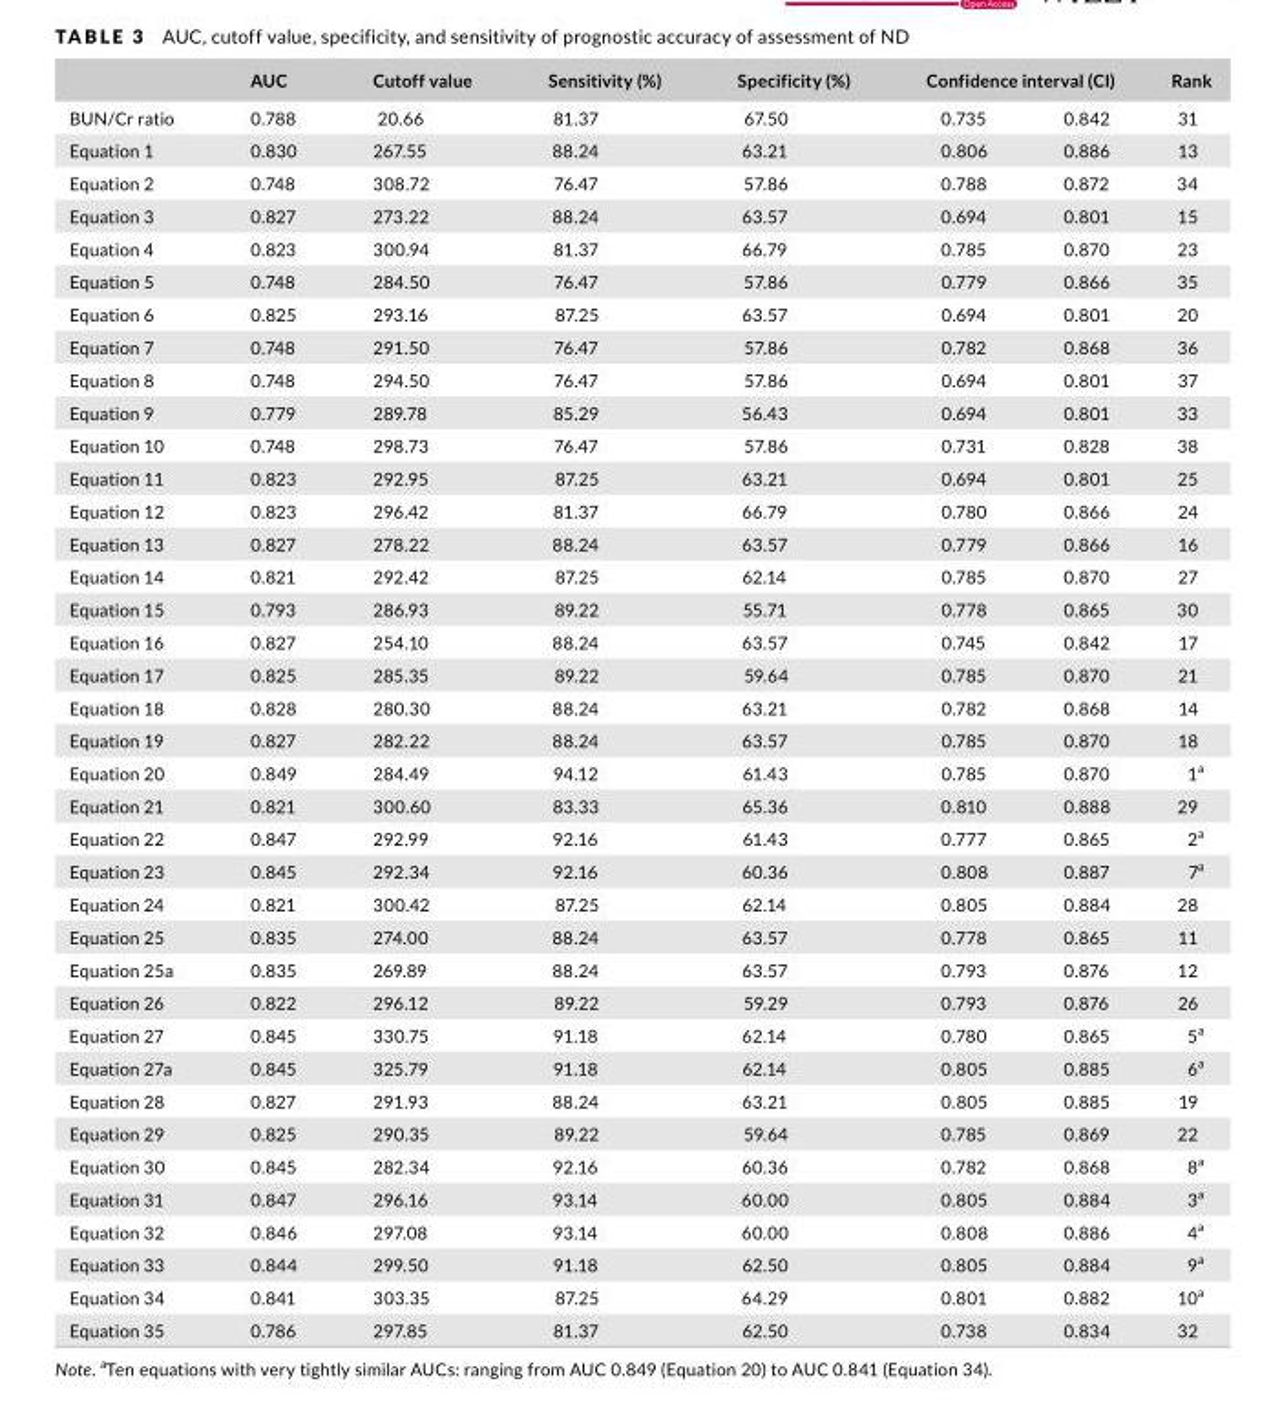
<table><thead><tr><td rowspan="2">BUN/Cr ratio</td><td rowspan="2">AUC 0.788</td><td rowspan="2">Cutoff value 20.66</td><td rowspan="2">Sensitivity (%) 81.37</td><td rowspan="2">Specificity (%) 67.50</td><td colspan="2">Confidence interval (CI)</td><td rowspan="2">Rank 31</td></tr><tr><td>0.735</td><td>0.842</td></tr></thead><tbody><tr><td>Equation 1</td><td>0.830</td><td>267.55</td><td>88.24</td><td>63.21</td><td>0.806</td><td>0.886</td><td>13</td></tr><tr><td>Equation 2</td><td>0.748</td><td>308.72</td><td>76.47</td><td>57.86</td><td>0.788</td><td>0.872</td><td>34</td></tr><tr><td>Equation 3</td><td>0.827</td><td>273.22</td><td>88.24</td><td>63.57</td><td>0.694</td><td>0.801</td><td>15</td></tr><tr><td>Equation 4</td><td>0.823</td><td>300.94</td><td>81.37</td><td>66.79</td><td>0.785</td><td>0.870</td><td>23</td></tr><tr><td>Equation 5</td><td>0.748</td><td>284.50</td><td>76.47</td><td>57.86</td><td>0.779</td><td>0.866</td><td>35</td></tr><tr><td>Equation 6</td><td>0.825</td><td>293.16</td><td>87.25</td><td>63.57</td><td>0.694</td><td>0.801</td><td>20</td></tr><tr><td>Equation 7</td><td>0.748</td><td>291.50</td><td>76.47</td><td>57.86</td><td>0.782</td><td>0.868</td><td>36</td></tr><tr><td>Equation 8</td><td>0.748</td><td>294.50</td><td>76.47</td><td>57.86</td><td>0.694</td><td>0.801</td><td>37</td></tr><tr><td>Equation 9</td><td>0.779</td><td>289.78</td><td>85.29</td><td>56.43</td><td>0.694</td><td>0.801</td><td>33</td></tr><tr><td>Equation 10</td><td>0.748</td><td>298.73</td><td>76.47</td><td>57.86</td><td>0.731</td><td>0.828</td><td>38</td></tr><tr><td>Equation 11</td><td>0.823</td><td>292.95</td><td>87.25</td><td>63.21</td><td>0.694</td><td>0.801</td><td>25</td></tr><tr><td>Equation 12</td><td>0.823</td><td>296.42</td><td>81.37</td><td>66.79</td><td>0.780</td><td>0.866</td><td>24</td></tr><tr><td>Equation 13</td><td>0.827</td><td>278.22</td><td>88.24</td><td>63.57</td><td>0.779</td><td>0.866</td><td>16</td></tr><tr><td>Equation 14</td><td>0.821</td><td>292.42</td><td>87.25</td><td>62.14</td><td>0.785</td><td>0.870</td><td>27</td></tr><tr><td>Equation 15</td><td>0.793</td><td>286.93</td><td>89.22</td><td>55.71</td><td>0.778</td><td>0.865</td><td>30</td></tr><tr><td>Equation 16</td><td>0.827</td><td>254.10</td><td>88.24</td><td>63.57</td><td>0.745</td><td>0.842</td><td>17</td></tr><tr><td>Equation 17</td><td>0.825</td><td>285.35</td><td>89.22</td><td>59.64</td><td>0.785</td><td>0.870</td><td>21</td></tr><tr><td>Equation 18</td><td>0.828</td><td>280.30</td><td>88.24</td><td>63.21</td><td>0.782</td><td>0.868</td><td>14</td></tr><tr><td>Equation 19</td><td>0.827</td><td>282.22</td><td>88.24</td><td>63.57</td><td>0.785</td><td>0.870</td><td>18</td></tr><tr><td>Equation 20</td><td>0.849</td><td>284.49</td><td>94.12</td><td>61.43</td><td>0.785</td><td>0.870</td><td>1<sup>a</sup></td></tr><tr><td>Equation 21</td><td>0.821</td><td>300.60</td><td>83.33</td><td>65.36</td><td>0.810</td><td>0.888</td><td>29</td></tr><tr><td>Equation 22</td><td>0.847</td><td>292.99</td><td>92.16</td><td>61.43</td><td>0.777</td><td>0.865</td><td>2<sup>a</sup></td></tr><tr><td>Equation 23</td><td>0.845</td><td>292.34</td><td>92.16</td><td>60.36</td><td>0.808</td><td>0.887</td><td>7<sup>a</sup></td></tr><tr><td>Equation 24</td><td>0.821</td><td>300.42</td><td>87.25</td><td>62.14</td><td>0.805</td><td>0.884</td><td>28</td></tr><tr><td>Equation 25</td><td>0.835</td><td>274.00</td><td>88.24</td><td>63.57</td><td>0.778</td><td>0.865</td><td>11</td></tr><tr><td>Equation 25a</td><td>0.835</td><td>269.89</td><td>88.24</td><td>63.57</td><td>0.793</td><td>0.876</td><td>12</td></tr><tr><td>Equation 26</td><td>0.822</td><td>296.12</td><td>89.22</td><td>59.29</td><td>0.793</td><td>0.876</td><td>26</td></tr><tr><td>Equation 27</td><td>0.845</td><td>330.75</td><td>91.18</td><td>62.14</td><td>0.780</td><td>0.865</td><td>5<sup>a</sup></td></tr><tr><td>Equation 27a</td><td>0.845</td><td>325.79</td><td>91.18</td><td>62.14</td><td>0.805</td><td>0.885</td><td>6<sup>a</sup></td></tr><tr><td>Equation 28</td><td>0.827</td><td>291.93</td><td>88.24</td><td>63.21</td><td>0.805</td><td>0.885</td><td>19</td></tr><tr><td>Equation 29</td><td>0.825</td><td>290.35</td><td>89.22</td><td>59.64</td><td>0.785</td><td>0.869</td><td>22</td></tr><tr><td>Equation 30</td><td>0.845</td><td>282.34</td><td>92.16</td><td>60.36</td><td>0.782</td><td>0.868</td><td>8<sup>a</sup></td></tr><tr><td>Equation 31</td><td>0.847</td><td>296.16</td><td>93.14</td><td>60.00</td><td>0.805</td><td>0.884</td><td>3<sup>a</sup></td></tr><tr><td>Equation 32</td><td>0.846</td><td>297.08</td><td>93.14</td><td>60.00</td><td>0.808</td><td>0.886</td><td>4<sup>a</sup></td></tr><tr><td>Equation 33</td><td>0.844</td><td>299.50</td><td>91.18</td><td>62.50</td><td>0.805</td><td>0.884</td><td>9<sup>a</sup></td></tr><tr><td>Equation 34</td><td>0.841</td><td>303.35</td><td>87.25</td><td>64.29</td><td>0.801</td><td>0.882</td><td>10<sup>a</sup></td></tr><tr><td>Equation 35</td><td>0.786</td><td>297.85</td><td>81.37</td><td>62.50</td><td>0.738</td><td>0.834</td><td>32</td></tr></tbody></table>